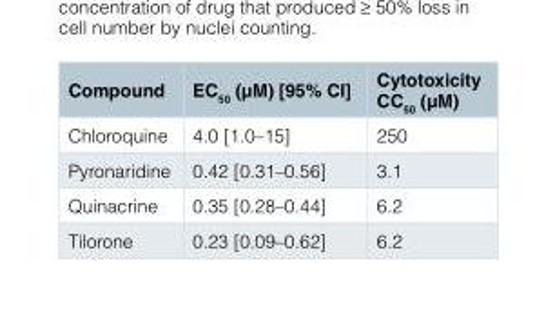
<table><thead><tr><td>Compound</td><td>EC<sub>50</sub> (μM) [95% CI]</td><td>Cytotoxicity CC<sub>50</sub> (μM)</td></tr></thead><tbody><tr><td>Chloroquine</td><td>4.0 [1.0–15]</td><td>250</td></tr><tr><td>Pyronaridine</td><td>0.42 [0.31–0.56]</td><td>3.1</td></tr><tr><td>Quinacrine</td><td>0.35 [0.28–0.44]</td><td>6.2</td></tr><tr><td>Tilorone</td><td>0.23 [0.09–0.62]</td><td>6.2</td></tr></tbody></table>